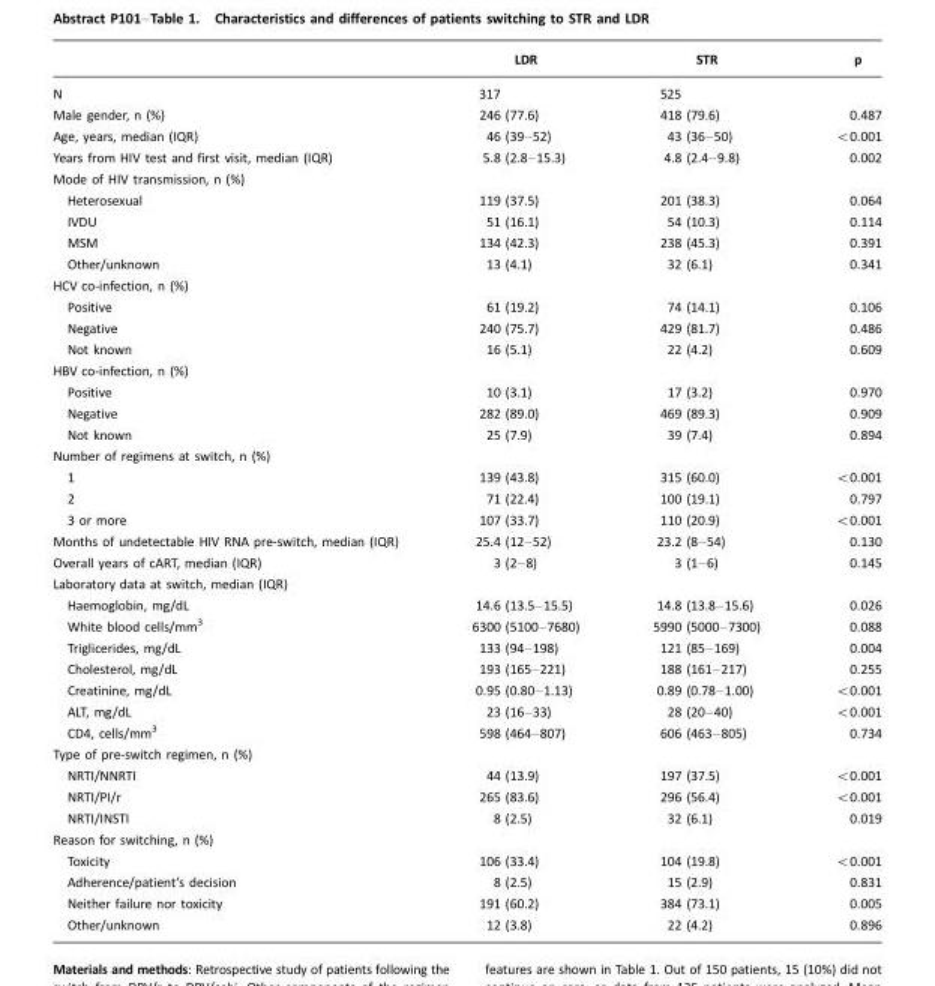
<table><thead><tr><td></td><td>LDR</td><td>STR</td><td>p</td></tr></thead><tbody><tr><td>N</td><td>317</td><td>525</td><td></td></tr><tr><td>Male gender, n (%)</td><td>246 (77.6)</td><td>418 (79.6)</td><td>0.487</td></tr><tr><td>Age, years, median (IQR)</td><td>46 (39–52)</td><td>43 (36–50)</td><td>&lt;0.001</td></tr><tr><td>Years from HIV test and first visit, median (IQR)</td><td>5.8 (2.8–15.3)</td><td>4.8 (2.4–9.8)</td><td>0.002</td></tr><tr><td colspan="4">Mode of HIV transmission, n (%)</td></tr><tr><td>Heterosexual</td><td>119 (37.5)</td><td>201 (38.3)</td><td>0.064</td></tr><tr><td>IVDU</td><td>51 (16.1)</td><td>54 (10.3)</td><td>0.114</td></tr><tr><td>MSM</td><td>134 (42.3)</td><td>238 (45.3)</td><td>0.391</td></tr><tr><td>Other/unknown</td><td>13 (4.1)</td><td>32 (6.1)</td><td>0.341</td></tr><tr><td colspan="4">HCV co-infection, n (%)</td></tr><tr><td>Positive</td><td>61 (19.2)</td><td>74 (14.1)</td><td>0.106</td></tr><tr><td>Negative</td><td>240 (75.7)</td><td>429 (81.7)</td><td>0.486</td></tr><tr><td>Not known</td><td>16 (5.1)</td><td>22 (4.2)</td><td>0.609</td></tr><tr><td colspan="4">HBV co-infection, n (%)</td></tr><tr><td>Positive</td><td>10 (3.1)</td><td>17 (3.2)</td><td>0.970</td></tr><tr><td>Negative</td><td>282 (89.0)</td><td>469 (89.3)</td><td>0.909</td></tr><tr><td>Not known</td><td>25 (7.9)</td><td>39 (7.4)</td><td>0.894</td></tr><tr><td colspan="4">Number of regimens at switch, n (%)</td></tr><tr><td>1</td><td>139 (43.8)</td><td>315 (60.0)</td><td>&lt;0.001</td></tr><tr><td>2</td><td>71 (22.4)</td><td>100 (19.1)</td><td>0.797</td></tr><tr><td>3 or more</td><td>107 (33.7)</td><td>110 (20.9)</td><td>&lt;0.001</td></tr><tr><td>Months of undetectable HIV RNA pre-switch, median (IQR)</td><td>25.4 (12–52)</td><td>23.2 (8–54)</td><td>0.130</td></tr><tr><td>Overall years of cART, median (IQR)</td><td>3 (2–8)</td><td>3 (1–6)</td><td>0.145</td></tr><tr><td colspan="4">Laboratory data at switch, median (IQR)</td></tr><tr><td>Haemoglobin, mg/dL</td><td>14.6 (13.5–15.5)</td><td>14.8 (13.8–15.6)</td><td>0.026</td></tr><tr><td>White blood cells/mm3</td><td>6300 (5100–7680)</td><td>5990 (5000–7300)</td><td>0.088</td></tr><tr><td>Triglicerides, mg/dL</td><td>133 (94–198)</td><td>121 (85–169)</td><td>0.004</td></tr><tr><td>Cholesterol, mg/dL</td><td>193 (165–221)</td><td>188 (161–217)</td><td>0.255</td></tr><tr><td>Creatinine, mg/dL</td><td>0.95 (0.80–1.13)</td><td>0.89 (0.78–1.00)</td><td>&lt;0.001</td></tr><tr><td>ALT, mg/dL</td><td>23 (16–33)</td><td>28 (20–40)</td><td>&lt;0.001</td></tr><tr><td>CD4, cells/mm3</td><td>598 (464–807)</td><td>606 (463–805)</td><td>0.734</td></tr><tr><td colspan="4">Type of pre-switch regimen, n (%)</td></tr><tr><td>NRTI/NNRTI</td><td>44 (13.9)</td><td>197 (37.5)</td><td>&lt;0.001</td></tr><tr><td>NRTI/PI/r</td><td>265 (83.6)</td><td>296 (56.4)</td><td>&lt;0.001</td></tr><tr><td>NRTI/INSTI</td><td>8 (2.5)</td><td>32 (6.1)</td><td>0.019</td></tr><tr><td colspan="4">Reason for switching, n (%)</td></tr><tr><td>Toxicity</td><td>106 (33.4)</td><td>104 (19.8)</td><td>&lt;0.001</td></tr><tr><td>Adherence/patient’s decision</td><td>8 (2.5)</td><td>15 (2.9)</td><td>0.831</td></tr><tr><td>Neither failure nor toxicity</td><td>191 (60.2)</td><td>384 (73.1)</td><td>0.005</td></tr><tr><td>Other/unknown</td><td>12 (3.8)</td><td>22 (4.2)</td><td>0.896</td></tr></tbody></table>